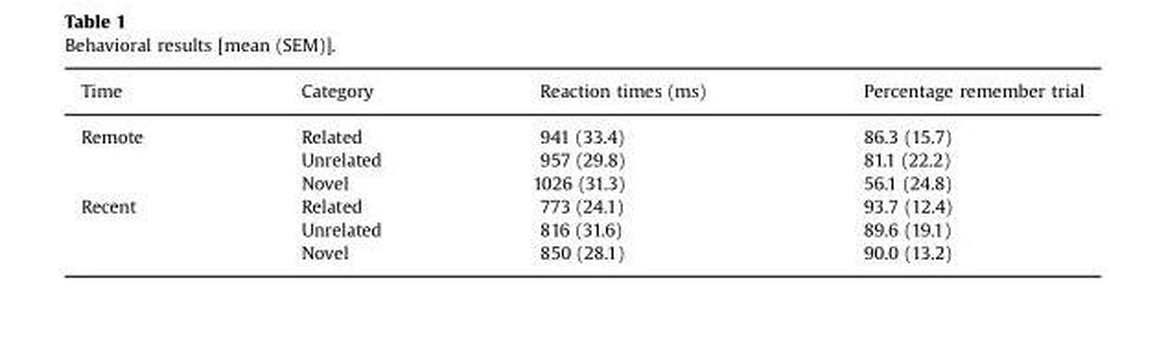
<table><thead><tr><td>Time</td><td>Category</td><td>Reaction times (ms)</td><td>Percentage remember trial</td></tr></thead><tbody><tr><td rowspan="3">Remote</td><td>Related</td><td>941 (33.4)</td><td>86.3 (15.7)</td></tr><tr><td>Unrelated</td><td>957 (29.8)</td><td>81.1 (22.2)</td></tr><tr><td>Novel</td><td>1026 (31.3)</td><td>56.1 (24.8)</td></tr><tr><td rowspan="3">Recent</td><td>Related</td><td>773 (24.1)</td><td>93.7 (12.4)</td></tr><tr><td>Unrelated</td><td>816 (31.6)</td><td>89.6 (19.1)</td></tr><tr><td>Novel</td><td>850 (28.1)</td><td>90.0 (13.2)</td></tr></tbody></table>